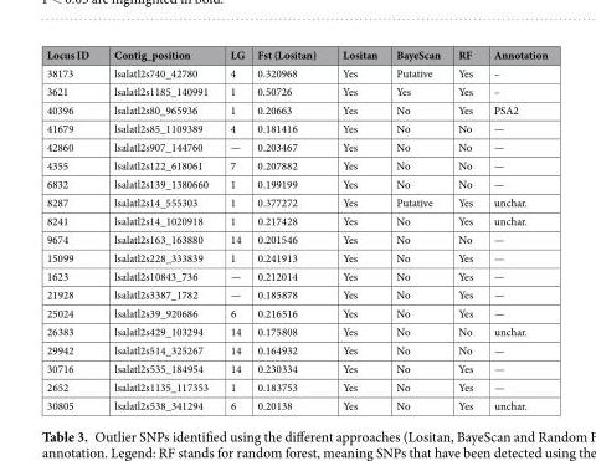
<table><thead><tr><td>Locus ID</td><td>Contig_position</td><td>LG</td><td>Fst (Lositan)</td><td>Lositan</td><td>BayeScan</td><td>RF</td><td>Annotation</td></tr></thead><tbody><tr><td>38173</td><td>lsalatl2s740_42780</td><td>4</td><td>0.320968</td><td>Yes</td><td>Putative</td><td>Yes</td><td>–</td></tr><tr><td>3621</td><td>lsalatl2s1185_140991</td><td>1</td><td>0.50726</td><td>Yes</td><td>Yes</td><td>Yes</td><td>–</td></tr><tr><td>40396</td><td>lsalatl2s80_965936</td><td>1</td><td>0.20663</td><td>Yes</td><td>No</td><td>Yes</td><td>PSA2</td></tr><tr><td>41679</td><td>lsalatl2s85_1109389</td><td>4</td><td>0.181416</td><td>Yes</td><td>No</td><td>No</td><td>—</td></tr><tr><td>42860</td><td>lsalatl2s907_144760</td><td>—</td><td>0.203467</td><td>Yes</td><td>No</td><td>No</td><td>—</td></tr><tr><td>4355</td><td>lsalatl2s122_618061</td><td>7</td><td>0.207882</td><td>Yes</td><td>No</td><td>No</td><td>—</td></tr><tr><td>6832</td><td>lsalatl2s139_1380660</td><td>1</td><td>0.199199</td><td>Yes</td><td>No</td><td>No</td><td>—</td></tr><tr><td>8287</td><td>lsalatl2s14_555303</td><td>1</td><td>0.377272</td><td>Yes</td><td>Putative</td><td>Yes</td><td>unchar.</td></tr><tr><td>8241</td><td>lsalatl2s14_1020918</td><td>1</td><td>0.217428</td><td>Yes</td><td>No</td><td>Yes</td><td>unchar.</td></tr><tr><td>9674</td><td>lsalatl2s163_163880</td><td>14</td><td>0.201546</td><td>Yes</td><td>No</td><td>No</td><td>—</td></tr><tr><td>15099</td><td>lsalatl2s228_333839</td><td>1</td><td>0.241913</td><td>Yes</td><td>No</td><td>Yes</td><td>—</td></tr><tr><td>1623</td><td>lsalatl2s10843_736</td><td>—</td><td>0.212014</td><td>Yes</td><td>No</td><td>Yes</td><td>—</td></tr><tr><td>21928</td><td>lsalatl2s3387_1782</td><td>—</td><td>0.185878</td><td>Yes</td><td>No</td><td>Yes</td><td>—</td></tr><tr><td>25024</td><td>lsalatl2s39_920686</td><td>6</td><td>0.216516</td><td>Yes</td><td>No</td><td>Yes</td><td>—</td></tr><tr><td>26383</td><td>lsalatl2s429_103294</td><td>14</td><td>0.175808</td><td>Yes</td><td>No</td><td>No</td><td>unchar.</td></tr><tr><td>29942</td><td>lsalatl2s514_325267</td><td>14</td><td>0.164932</td><td>Yes</td><td>No</td><td>No</td><td>—</td></tr><tr><td>30716</td><td>lsalatl2s535_184954</td><td>14</td><td>0.230334</td><td>Yes</td><td>No</td><td>Yes</td><td>—</td></tr><tr><td>2652</td><td>lsalatl2s1135_117353</td><td>1</td><td>0.183753</td><td>Yes</td><td>No</td><td>Yes</td><td>—</td></tr><tr><td>30805</td><td>lsalatl2s538_341294</td><td>6</td><td>0.20138</td><td>Yes</td><td>No</td><td>Yes</td><td>unchar.</td></tr></tbody></table>